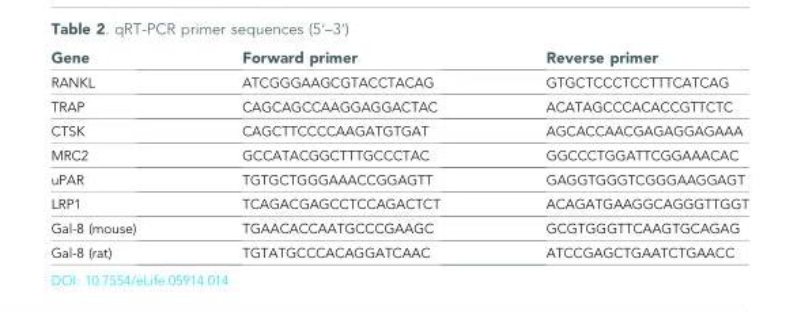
<table><thead><tr><td>Gene</td><td>Forward primer</td><td>Reverse primer</td></tr></thead><tbody><tr><td>RANKL</td><td>ATCGGGAAGCGTACCTACAG</td><td>GTGCTCCCTCCTTTCATCAG</td></tr><tr><td>TRAP</td><td>CAGCAGCCAAGGAGGACTAC</td><td>ACATAGCCCACACCGTTCTC</td></tr><tr><td>CTSK</td><td>CAGCTTCCCCAAGATGTGAT</td><td>AGCACCAACGAGAGGAGAAA</td></tr><tr><td>MRC2</td><td>GCCATACGGCTTTGCCCTAC</td><td>GGCCCTGGATTCGGAAACAC</td></tr><tr><td>uPAR</td><td>TGTGCTGGGAAACCGGAGTT</td><td>GAGGTGGGTCGGGAAGGAGT</td></tr><tr><td>LRP1</td><td>TCAGACGAGCCTCCAGACTCT</td><td>ACAGATGAAGGCAGGGTTGGT</td></tr><tr><td>Gal-8 (mouse)</td><td>TGAACACCAATGCCCGAAGC</td><td>GCGTGGGTTCAAGTGCAGAG</td></tr><tr><td>Gal-8 (rat)</td><td>TGTATGCCCACAGGATCAAC</td><td>ATCCGAGCTGAATCTGAACC</td></tr></tbody></table>